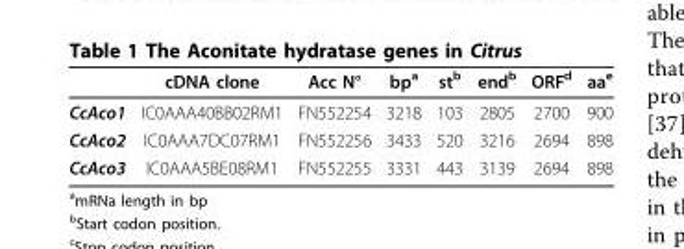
<table><thead><tr><td></td><td>cDNA clone</td><td>Acc N°</td><td>bp<sup>a</sup></td><td>st<sup>b</sup></td><td>end<sup>b</sup></td><td>ORF<sup>d</sup></td><td>aa<sup>e</sup></td></tr></thead><tbody><tr><td>CcAco1</td><td>IC0AAA40BB02RM1</td><td>FN552254</td><td>3218</td><td>103</td><td>2805</td><td>2700</td><td>900</td></tr><tr><td>CcAco2</td><td>IC0AAA7DC07RM1</td><td>FN552256</td><td>3433</td><td>520</td><td>3216</td><td>2694</td><td>898</td></tr><tr><td>CcAco3</td><td>IC0AAA5BE08RM1</td><td>FN552255</td><td>3331</td><td>443</td><td>3139</td><td>2694</td><td>898</td></tr></tbody></table>